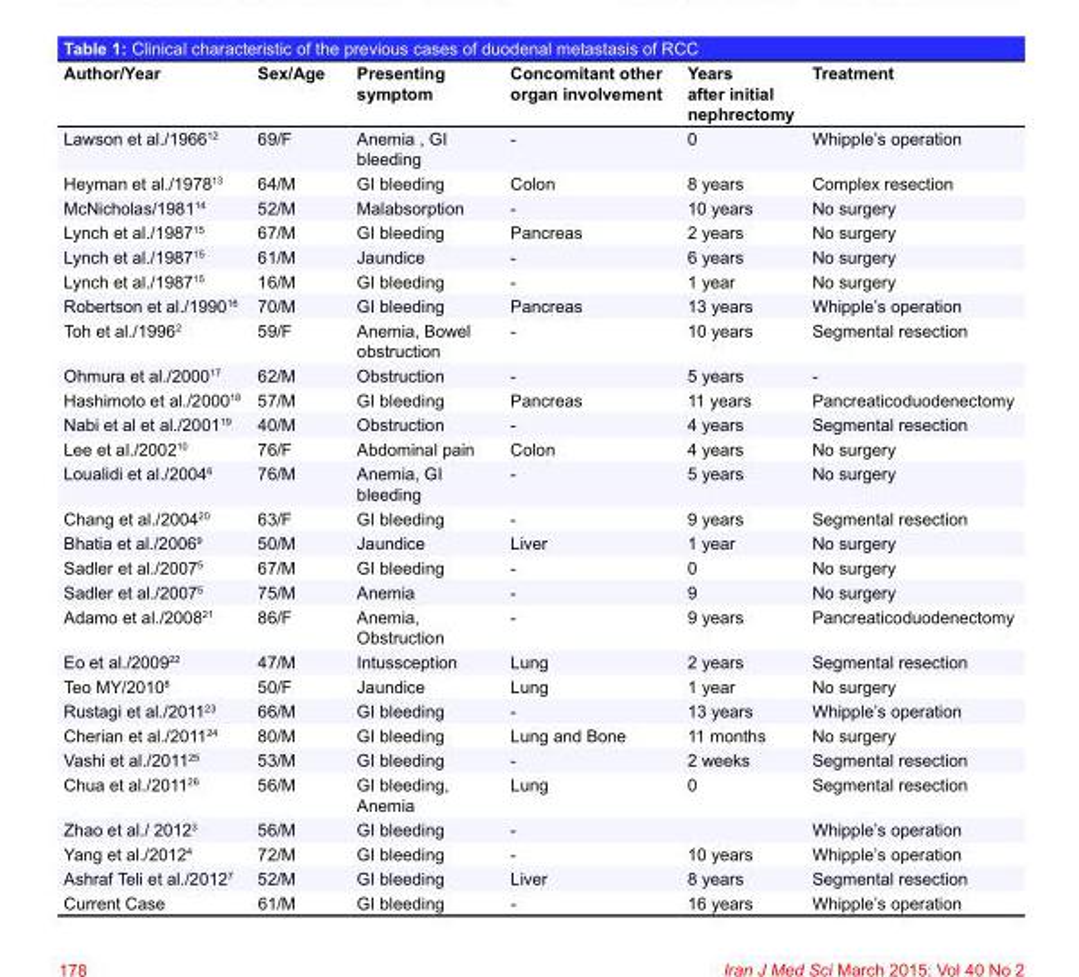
<table><thead><tr><td>Author/Year</td><td>Sex/Age</td><td>Presenting symptom</td><td>Concomitant other organ involvement</td><td>Years after initial nephrectomy</td><td>Treatment</td></tr></thead><tbody><tr><td>Lawson et al./1966<sup>12</sup></td><td>69/F</td><td>Anemia , GI bleeding</td><td>-</td><td>0</td><td>Whipple’s operation</td></tr><tr><td>Heyman et al./1978<sup>13</sup></td><td>64/M</td><td>GI bleeding</td><td>Colon</td><td>8 years</td><td>Complex resection</td></tr><tr><td>McNicholas/1981<sup>14</sup></td><td>52/M</td><td>Malabsorption</td><td>-</td><td>10 years</td><td>No surgery</td></tr><tr><td>Lynch et al./1987<sup>15</sup></td><td>67/M</td><td>GI bleeding</td><td>Pancreas</td><td>2 years</td><td>No surgery</td></tr><tr><td>Lynch et al./1987<sup>15</sup></td><td>61/M</td><td>Jaundice</td><td>-</td><td>6 years</td><td>No surgery</td></tr><tr><td>Lynch et al./1987<sup>15</sup></td><td>16/M</td><td>GI bleeding</td><td>-</td><td>1 year</td><td>No surgery</td></tr><tr><td>Robertson et al./1990<sup>16</sup></td><td>70/M</td><td>GI bleeding</td><td>Pancreas</td><td>13 years</td><td>Whipple’s operation</td></tr><tr><td>Toh et al./1996<sup>2</sup></td><td>59/F</td><td>Anemia, Bowel obstruction</td><td>-</td><td>10 years</td><td>Segmental resection</td></tr><tr><td>Ohmura et al./2000<sup>17</sup></td><td>62/M</td><td>Obstruction</td><td>-</td><td>5 years</td><td>-</td></tr><tr><td>Hashimoto et al./2000<sup>18</sup></td><td>57/M</td><td>GI bleeding</td><td>Pancreas</td><td>11 years</td><td>Pancreaticoduodenectomy</td></tr><tr><td>Nabi et al et al./2001<sup>19</sup></td><td>40/M</td><td>Obstruction</td><td>-</td><td>4 years</td><td>Segmental resection</td></tr><tr><td>Lee et al./2002<sup>10</sup></td><td>76/F</td><td>Abdominal pain</td><td>Colon</td><td>4 years</td><td>No surgery</td></tr><tr><td>Loualidi et al./2004<sup>6</sup></td><td>76/M</td><td>Anemia, GI bleeding</td><td>-</td><td>5 years</td><td>No surgery</td></tr><tr><td>Chang et al./2004<sup>20</sup></td><td>63/F</td><td>GI bleeding</td><td>-</td><td>9 years</td><td>Segmental resection</td></tr><tr><td>Bhatia et al./2006<sup>9</sup></td><td>50/M</td><td>Jaundice</td><td>Liver</td><td>1 year</td><td>No surgery</td></tr><tr><td>Sadler et al./2007<sup>5</sup></td><td>67/M</td><td>GI bleeding</td><td>-</td><td>0</td><td>No surgery</td></tr><tr><td>Sadler et al./2007<sup>5</sup></td><td>75/M</td><td>Anemia</td><td>-</td><td>9</td><td>No surgery</td></tr><tr><td>Adamo et al./2008<sup>21</sup></td><td>86/F</td><td>Anemia, Obstruction</td><td>-</td><td>9 years</td><td>Pancreaticoduodenectomy</td></tr><tr><td>Eo et al./2009<sup>22</sup></td><td>47/M</td><td>Intussception</td><td>Lung</td><td>2 years</td><td>Segmental resection</td></tr><tr><td>Teo MY/2010<sup>8</sup></td><td>50/F</td><td>Jaundice</td><td>Lung</td><td>1 year</td><td>No surgery</td></tr><tr><td>Rustagi et al./2011<sup>23</sup></td><td>66/M</td><td>GI bleeding</td><td>-</td><td>13 years</td><td>Whipple’s operation</td></tr><tr><td>Cherian et al./2011<sup>24</sup></td><td>80/M</td><td>GI bleeding</td><td>Lung and Bone</td><td>11 months</td><td>No surgery</td></tr><tr><td>Vashi et al./2011<sup>25</sup></td><td>53/M</td><td>GI bleeding</td><td>-</td><td>2 weeks</td><td>Segmental resection</td></tr><tr><td>Chua et al./2011<sup>26</sup></td><td>56/M</td><td>GI bleeding, Anemia</td><td>Lung</td><td>0</td><td>Segmental resection</td></tr><tr><td>Zhao et al./ 2012<sup>3</sup></td><td>56/M</td><td>GI bleeding</td><td>-</td><td></td><td>Whipple’s operation</td></tr><tr><td>Yang et al./2012<sup>4</sup></td><td>72/M</td><td>GI bleeding</td><td>-</td><td>10 years</td><td>Whipple’s operation</td></tr><tr><td>Ashraf Teli et al./2012<sup>7</sup></td><td>52/M</td><td>GI bleeding</td><td>Liver</td><td>8 years</td><td>Segmental resection</td></tr><tr><td>Current Case</td><td>61/M</td><td>GI bleeding</td><td>-</td><td>16 years</td><td>Whipple’s operation</td></tr></tbody></table>